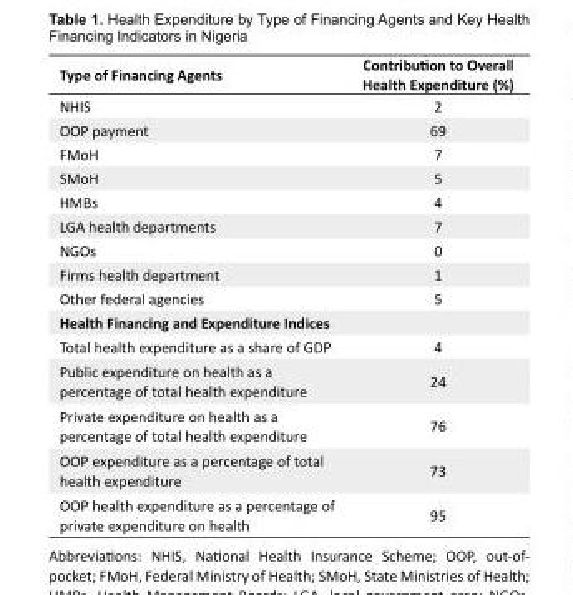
<table><tbody><tr><td>Type of Financing Agents</td><td>Contribution to Overall Health Expenditure (%)</td></tr><tr><td>NHIS</td><td>2</td></tr><tr><td>OOP payment</td><td>69</td></tr><tr><td>FMoH</td><td>7</td></tr><tr><td>SMoH</td><td>5</td></tr><tr><td>HMBs</td><td>4</td></tr><tr><td>LGA health departments</td><td>7</td></tr><tr><td>NGOs</td><td>0</td></tr><tr><td>Firms health department</td><td>1</td></tr><tr><td>Other federal agencies</td><td>5</td></tr><tr><td colspan="2">Health Financing and Expenditure Indices</td></tr><tr><td>Total health expenditure as a share of GDP</td><td>4</td></tr><tr><td>Public expenditure on health as a percentage of total health expenditure</td><td>24</td></tr><tr><td>Private expenditure on health as a percentage of total health expenditure</td><td>76</td></tr><tr><td>OOP expenditure as a percentage of total health expenditure</td><td>73</td></tr><tr><td>OOP health expenditure as a percentage of private expenditure on health</td><td>95</td></tr></tbody></table>